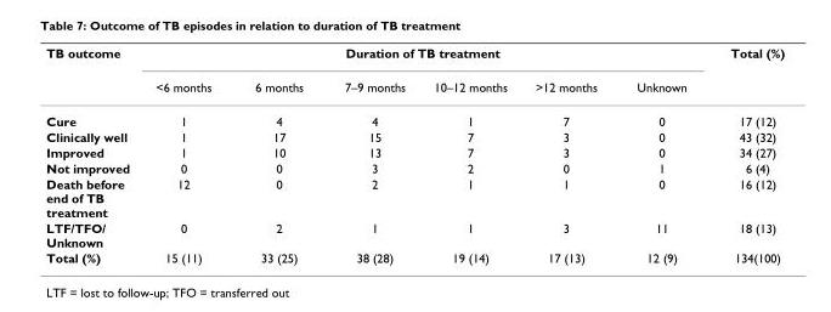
<table><thead><tr><td rowspan="2">TB outcome</td><td colspan="6">Duration of TB treatment</td><td rowspan="2">Total (%)</td></tr><tr><td>&lt;6 months</td><td>6 months</td><td>7–9 months</td><td>10–12 months</td><td>&gt;12 months</td><td>Unknown</td></tr></thead><tbody><tr><td>Cure</td><td>1</td><td>4</td><td>4</td><td>1</td><td>7</td><td>0</td><td>17 (12)</td></tr><tr><td>Clinically well</td><td>1</td><td>17</td><td>15</td><td>7</td><td>3</td><td>0</td><td>43 (32)</td></tr><tr><td>Improved</td><td>1</td><td>10</td><td>13</td><td>7</td><td>3</td><td>0</td><td>34 (27)</td></tr><tr><td>Not improved</td><td>0</td><td>0</td><td>3</td><td>2</td><td>0</td><td>1</td><td>6 (4)</td></tr><tr><td>Death before end of TB treatment</td><td>12</td><td>0</td><td>2</td><td>1</td><td>1</td><td>0</td><td>16 (12)</td></tr><tr><td>LTF/TFO/ Unknown</td><td>0</td><td>2</td><td>1</td><td>1</td><td>3</td><td>11</td><td>18 (13)</td></tr><tr><td>Total (%)</td><td>15 (11)</td><td>33 (25)</td><td>38 (28)</td><td>19 (14)</td><td>17 (13)</td><td>12 (9)</td><td>134(100)</td></tr></tbody></table>